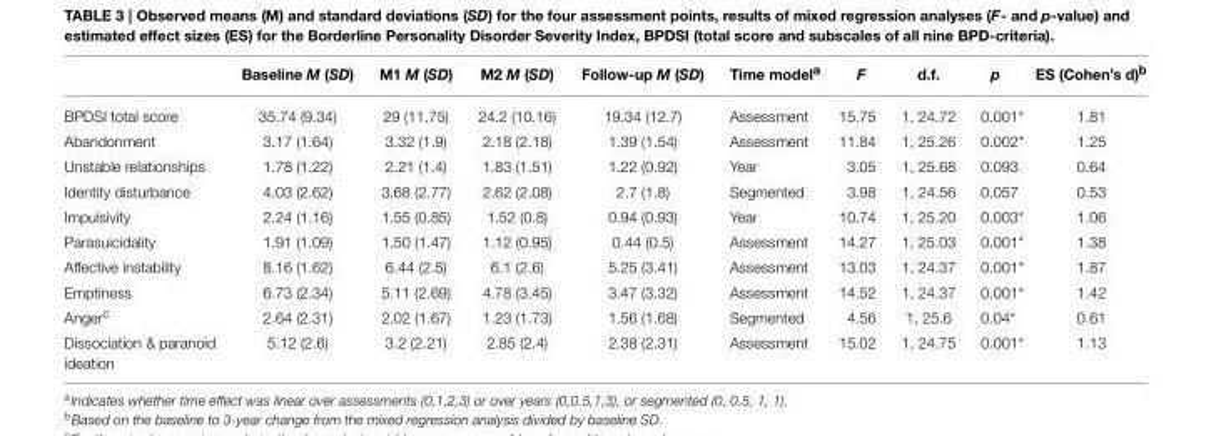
<table><thead><tr><td></td><td>Baseline M (SD)</td><td>M1 M (SD)</td><td>M2 M (SD)</td><td>Follow-up M (SD)</td><td>Time model<sup>a</sup></td><td>F</td><td>d.f.</td><td>p</td><td>ES (Cohen’s d)<sup>b</sup></td></tr></thead><tbody><tr><td>BPDSI total score</td><td>35.74 (9.34)</td><td>29 (11.75)</td><td>24.2 (10.16)</td><td>19.34 (12.7)</td><td>Assessment</td><td>15.75</td><td>1, 24.72</td><td>0.001*</td><td>1.81</td></tr><tr><td>Abandonment</td><td>3.17 (1.64)</td><td>3.32 (1.9)</td><td>2.18 (2.18)</td><td>1.39 (1.54)</td><td>Assessment</td><td>11.84</td><td>1, 25.26</td><td>0.002*</td><td>1.25</td></tr><tr><td>Unstable relationships</td><td>1.78 (1.22)</td><td>2.21 (1.4)</td><td>1.83 (1.51)</td><td>1.22 (0.92)</td><td>Year</td><td>3.05</td><td>1, 25.68</td><td>0.093</td><td>0.64</td></tr><tr><td>Identity disturbance</td><td>4.03 (2.62)</td><td>3.68 (2.77)</td><td>2.62 (2.08)</td><td>2.7 (1.8)</td><td>Segmented</td><td>3.98</td><td>1, 24.56</td><td>0.057</td><td>0.53</td></tr><tr><td>Impulsivity</td><td>2.24 (1.16)</td><td>1.55 (0.85)</td><td>1.52 (0.8)</td><td>0.94 (0.93)</td><td>Year</td><td>10.74</td><td>1, 25.20</td><td>0.003*</td><td>1.06</td></tr><tr><td>Parasuicidality</td><td>1.91 (1.09)</td><td>1.50 (1.47)</td><td>1.12 (0.95)</td><td>0.44 (0.5)</td><td>Assessment</td><td>14.27</td><td>1, 25.03</td><td>0.001*</td><td>1.38</td></tr><tr><td>Affective instability</td><td>8.16 (1.62)</td><td>6.44 (2.5)</td><td>6.1 (2.6)</td><td>5.25 (3.41)</td><td>Assessment</td><td>13.03</td><td>1, 24.37</td><td>0.001*</td><td>1.87</td></tr><tr><td>Emptiness</td><td>6.73 (2.34)</td><td>5.11 (2.69)</td><td>4.78 (3.45)</td><td>3.47 (3.32)</td><td>Assessment</td><td>14.52</td><td>1, 24.37</td><td>0.001*</td><td>1.42</td></tr><tr><td>Anger<sup>c</sup></td><td>2.64 (2.31)</td><td>2.02 (1.67)</td><td>1.23 (1.73)</td><td>1.56 (1.68)</td><td>Segmented</td><td>4.56</td><td>1, 25.6</td><td>0.04*</td><td>0.61</td></tr><tr><td>Dissociation &amp; paranoid ideation</td><td>5.12 (2.6)</td><td>3.2 (2.21)</td><td>2.85 (2.4)</td><td>2.38 (2.31)</td><td>Assessment</td><td>15.02</td><td>1, 24.75</td><td>0.001*</td><td>1.13</td></tr></tbody></table>